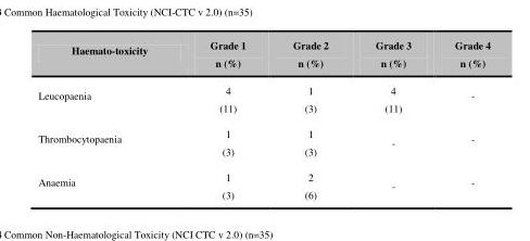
<table><thead><tr><td>Haemato-toxicity</td><td>Grade 1 n (%)</td><td>Grade 2 n (%)</td><td>Grade 3 n (%)</td><td>Grade 4 n (%)</td></tr></thead><tbody><tr><td>Leucopaenia</td><td>4 (11)</td><td>1 (3)</td><td>4 (11)</td><td>-</td></tr><tr><td>Thrombocytopaenia</td><td>1 (3)</td><td>1 (3)</td><td>-</td><td>-</td></tr><tr><td>Anaemia</td><td>1 (3)</td><td>2 (6)</td><td>-</td><td>-</td></tr></tbody></table>